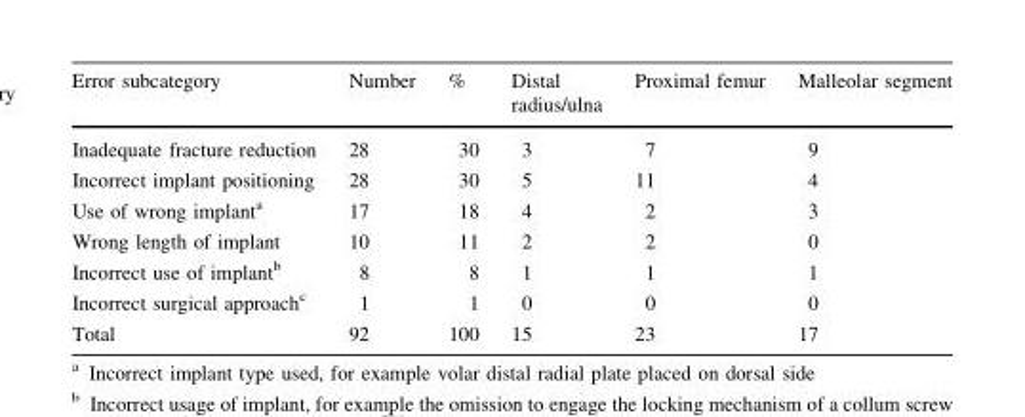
<table><thead><tr><td>Error subcategory</td><td>Number</td><td>%</td><td>Distal radius/ulna</td><td>Proximal femur</td><td>Malleolar segment</td></tr></thead><tbody><tr><td>Inadequate fracture reduction</td><td>28</td><td>30</td><td>3</td><td>7</td><td>9</td></tr><tr><td>Incorrect implant positioning</td><td>28</td><td>30</td><td>5</td><td>11</td><td>4</td></tr><tr><td>Use of wrong implant<sup>a</sup></td><td>17</td><td>18</td><td>4</td><td>2</td><td>3</td></tr><tr><td>Wrong length of implant</td><td>10</td><td>11</td><td>2</td><td>2</td><td>0</td></tr><tr><td>Incorrect use of implant<sup>b</sup></td><td>8</td><td>8</td><td>1</td><td>1</td><td>1</td></tr><tr><td>Incorrect surgical approach<sup>c</sup></td><td>1</td><td>1</td><td>0</td><td>0</td><td>0</td></tr><tr><td>Total</td><td>92</td><td>100</td><td>15</td><td>23</td><td>17</td></tr></tbody></table>